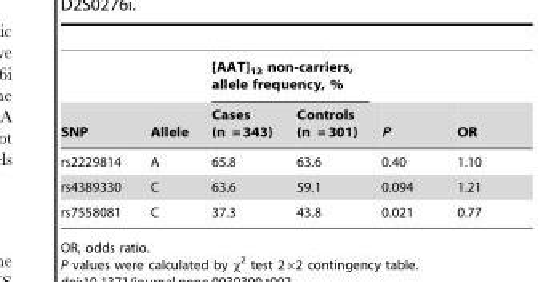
<table><thead><tr><td rowspan="2">SNP</td><td rowspan="2">Allele</td><td colspan="2">[AAT]<sub>12</sub> non-carriers, allele frequency, %</td><td rowspan="2">P</td><td rowspan="2">OR</td></tr><tr><td>Cases (n = 343)</td><td>Controls (n = 301)</td></tr></thead><tbody><tr><td>rs2229814</td><td>A</td><td>65.8</td><td>63.6</td><td>0.40</td><td>1.10</td></tr><tr><td>rs4389330</td><td>C</td><td>63.6</td><td>59.1</td><td>0.094</td><td>1.21</td></tr><tr><td>rs7558081</td><td>C</td><td>37.3</td><td>43.8</td><td>0.021</td><td>0.77</td></tr></tbody></table>